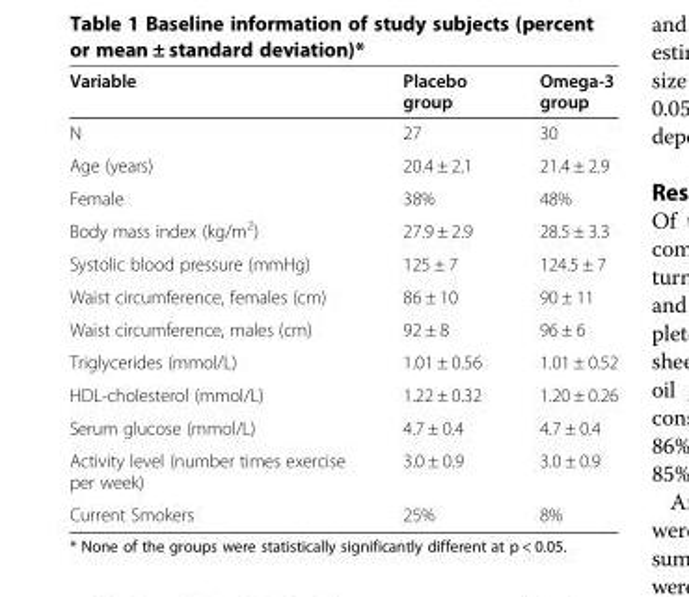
<table><thead><tr><td>Variable</td><td>Placebo group</td><td>Omega-3 group</td></tr></thead><tbody><tr><td>N</td><td>27</td><td>30</td></tr><tr><td>Age (years)</td><td>20.4 ± 2.1</td><td>21.4 ± 2.9</td></tr><tr><td>Female</td><td>38%</td><td>48%</td></tr><tr><td>Body mass index (kg/m<sup>2</sup>)</td><td>27.9 ± 2.9</td><td>28.5 ± 3.3</td></tr><tr><td>Systolic blood pressure (mmHg)</td><td>125 ± 7</td><td>124.5 ± 7</td></tr><tr><td>Waist circumference, females (cm)</td><td>86 ± 10</td><td>90 ± 11</td></tr><tr><td>Waist circumference, males (cm)</td><td>92 ± 8</td><td>96 ± 6</td></tr><tr><td>Triglycerides (mmol/L)</td><td>1.01 ± 0.56</td><td>1.01 ± 0.52</td></tr><tr><td>HDL-cholesterol (mmol/L)</td><td>1.22 ± 0.32</td><td>1.20 ± 0.26</td></tr><tr><td>Serum glucose (mmol/L)</td><td>4.7 ± 0.4</td><td>4.7 ± 0.4</td></tr><tr><td>Activity level (number times exercise per week)</td><td>3.0 ± 0.9</td><td>3.0 ± 0.9</td></tr><tr><td>Current Smokers</td><td>25%</td><td>8%</td></tr></tbody></table>